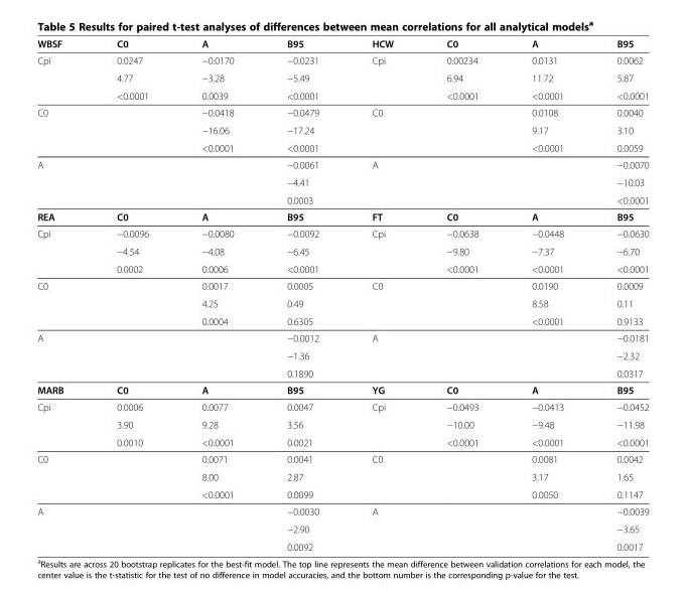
<table><thead><tr><td>WBSF</td><td>C0</td><td>A</td><td>B95</td><td>HCW</td><td>C0</td><td>A</td><td>B95</td></tr></thead><tbody><tr><td rowspan="3">Cpi</td><td>0.0247</td><td>−0.0170</td><td>−0.0231</td><td>Cpi</td><td>0.00234</td><td>0.0131</td><td>0.0062</td></tr><tr><td>4.77</td><td>−3.28</td><td>−5.49</td><td></td><td>6.94</td><td>11.72</td><td>5.87</td></tr><tr><td>&lt;0.0001</td><td>0.0039</td><td>&lt;0.0001</td><td></td><td>&lt;0.0001</td><td>&lt;0.0001</td><td>&lt;0.0001</td></tr><tr><td rowspan="3">C0</td><td></td><td>−0.0418</td><td>−0.0479</td><td>C0</td><td></td><td>0.0108</td><td>0.0040</td></tr><tr><td></td><td>−16.06</td><td>−17.24</td><td></td><td></td><td>9.17</td><td>3.10</td></tr><tr><td></td><td>&lt;0.0001</td><td>&lt;0.0001</td><td></td><td></td><td>&lt;0.0001</td><td>0.0059</td></tr><tr><td rowspan="3">A</td><td></td><td></td><td>−0.0061</td><td>A</td><td></td><td></td><td>−0.0070</td></tr><tr><td></td><td></td><td>−4.41</td><td></td><td></td><td></td><td>−10.03</td></tr><tr><td></td><td></td><td>0.0003</td><td></td><td></td><td></td><td>&lt;0.0001</td></tr><tr><td>REA</td><td>C0</td><td>A</td><td>B95</td><td>FT</td><td>C0</td><td>A</td><td>B95</td></tr><tr><td rowspan="3">Cpi</td><td>−0.0096</td><td>−0.0080</td><td>−0.0092</td><td>Cpi</td><td>−0.0638</td><td>−0.0448</td><td>−0.0630</td></tr><tr><td>−4.54</td><td>−4.08</td><td>−6.45</td><td></td><td>−9.80</td><td>−7.37</td><td>−6.70</td></tr><tr><td>0.0002</td><td>0.0006</td><td>&lt;0.0001</td><td></td><td>&lt;0.0001</td><td>&lt;0.0001</td><td>&lt;0.0001</td></tr><tr><td rowspan="3">C0</td><td></td><td>0.0017</td><td>0.0005</td><td>C0</td><td></td><td>0.0190</td><td>0.0009</td></tr><tr><td></td><td>4.25</td><td>0.49</td><td></td><td></td><td>8.58</td><td>0.11</td></tr><tr><td></td><td>0.0004</td><td>0.6305</td><td></td><td></td><td>&lt;0.0001</td><td>0.9133</td></tr><tr><td rowspan="3">A</td><td></td><td></td><td>−0.0012</td><td>A</td><td></td><td></td><td>−0.0181</td></tr><tr><td></td><td></td><td>−1.36</td><td></td><td></td><td></td><td>−2.32</td></tr><tr><td></td><td></td><td>0.1890</td><td></td><td></td><td></td><td>0.0317</td></tr><tr><td>MARB</td><td>C0</td><td>A</td><td>B95</td><td>YG</td><td>C0</td><td>A</td><td>B95</td></tr><tr><td rowspan="3">Cpi</td><td>0.0006</td><td>0.0077</td><td>0.0047</td><td>Cpi</td><td>−0.0493</td><td>−0.0413</td><td>−0.0452</td></tr><tr><td>3.90</td><td>9.28</td><td>3.56</td><td></td><td>−10.00</td><td>−9.48</td><td>−11.98</td></tr><tr><td>0.0010</td><td>&lt;0.0001</td><td>0.0021</td><td></td><td>&lt;0.0001</td><td>&lt;0.0001</td><td>&lt;0.0001</td></tr><tr><td rowspan="3">C0</td><td></td><td>0.0071</td><td>0.0041</td><td>C0</td><td></td><td>0.0081</td><td>0.0042</td></tr><tr><td></td><td>8.00</td><td>2.87</td><td></td><td></td><td>3.17</td><td>1.65</td></tr><tr><td></td><td>&lt;0.0001</td><td>0.0099</td><td></td><td></td><td>0.0050</td><td>0.1147</td></tr><tr><td rowspan="3">A</td><td></td><td></td><td>−0.0030</td><td>A</td><td></td><td></td><td>−0.0039</td></tr><tr><td></td><td></td><td>−2.90</td><td></td><td></td><td></td><td>−3.65</td></tr><tr><td></td><td></td><td>0.0092</td><td></td><td></td><td></td><td>0.0017</td></tr></tbody></table>